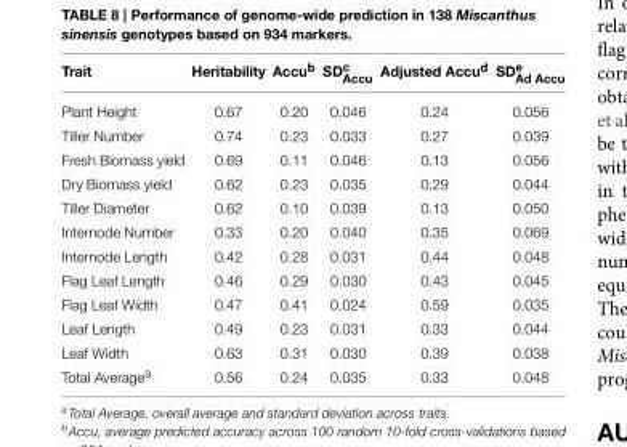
<table><thead><tr><td>Trait</td><td>Heritability</td><td>Accu<sup>b</sup></td><td>SD<sup>c</sup> <sub>Accu</sub></td><td>Adjusted Accu<sup>d</sup></td><td>SD<sup>e</sup> <sub>Ad Accu</sub></td></tr></thead><tbody><tr><td>Plant Height</td><td>0.67</td><td>0.20</td><td>0.046</td><td>0.24</td><td>0.056</td></tr><tr><td>Tiller Number</td><td>0.74</td><td>0.23</td><td>0.033</td><td>0.27</td><td>0.039</td></tr><tr><td>Fresh Biomass yield</td><td>0.69</td><td>0.11</td><td>0.046</td><td>0.13</td><td>0.056</td></tr><tr><td>Dry Biomass yield</td><td>0.62</td><td>0.23</td><td>0.035</td><td>0.29</td><td>0.044</td></tr><tr><td>Tiller Diameter</td><td>0.62</td><td>0.10</td><td>0.039</td><td>0.13</td><td>0.050</td></tr><tr><td>Internode Number</td><td>0.33</td><td>0.20</td><td>0.040</td><td>0.35</td><td>0.069</td></tr><tr><td>Internode Length</td><td>0.42</td><td>0.28</td><td>0.031</td><td>0.44</td><td>0.048</td></tr><tr><td>Flag Leaf Length</td><td>0.46</td><td>0.29</td><td>0.030</td><td>0.43</td><td>0.045</td></tr><tr><td>Flag Leaf Width</td><td>0.47</td><td>0.41</td><td>0.024</td><td>0.59</td><td>0.035</td></tr><tr><td>Leaf Length</td><td>0.49</td><td>0.23</td><td>0.031</td><td>0.33</td><td>0.044</td></tr><tr><td>Leaf Width</td><td>0.63</td><td>0.31</td><td>0.030</td><td>0.39</td><td>0.038</td></tr><tr><td>Total Average<sup>a</sup></td><td>0.56</td><td>0.24</td><td>0.035</td><td>0.33</td><td>0.048</td></tr></tbody></table>